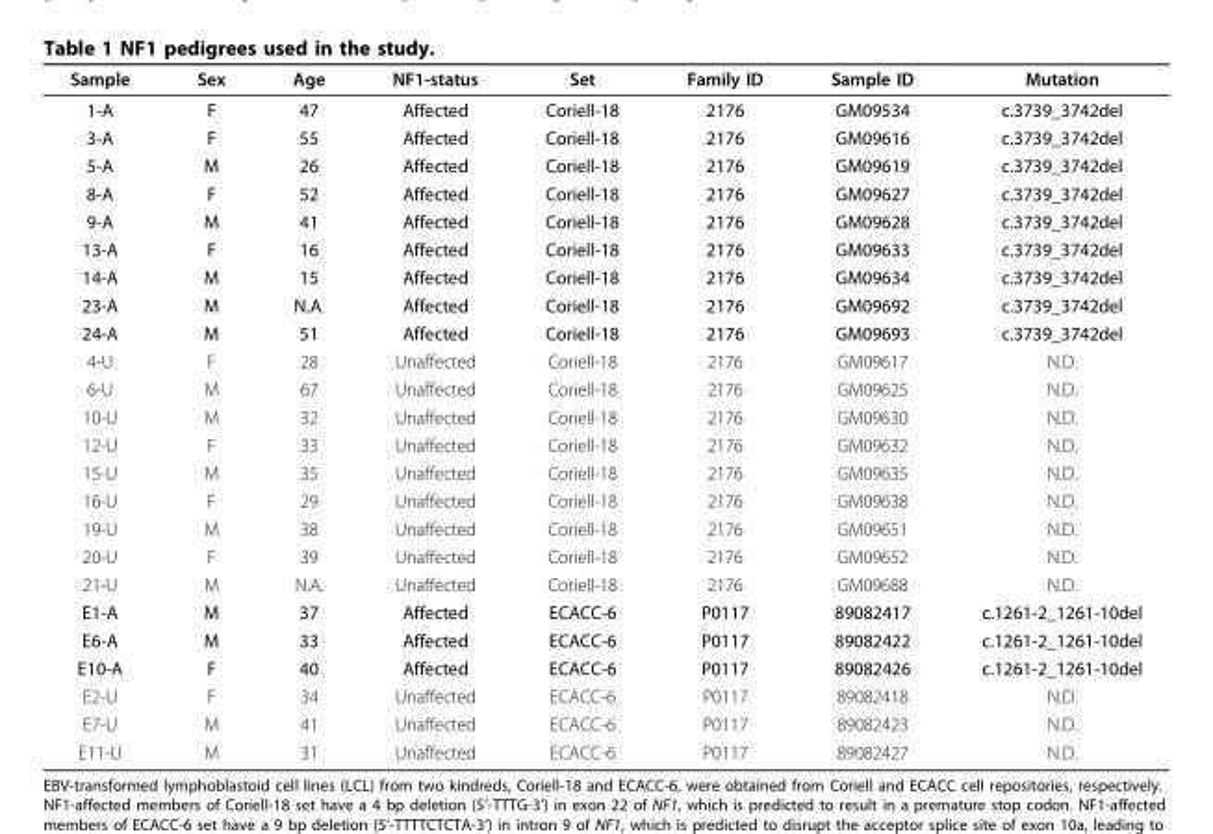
<table><thead><tr><td>Sample</td><td>Sex</td><td>Age</td><td>NF1-status</td><td>Set</td><td>Family ID</td><td>Sample ID</td><td>Mutation</td></tr></thead><tbody><tr><td>1-A</td><td>F</td><td>47</td><td>Affected</td><td>Coriell-18</td><td>2176</td><td>GM09534</td><td>c.3739_3742del</td></tr><tr><td>3-A</td><td>F</td><td>55</td><td>Affected</td><td>Coriell-18</td><td>2176</td><td>GM09616</td><td>c.3739_3742del</td></tr><tr><td>5-A</td><td>M</td><td>26</td><td>Affected</td><td>Coriell-18</td><td>2176</td><td>GM09619</td><td>c.3739_3742del</td></tr><tr><td>8-A</td><td>F</td><td>52</td><td>Affected</td><td>Coriell-18</td><td>2176</td><td>GM09627</td><td>c.3739_3742del</td></tr><tr><td>9-A</td><td>M</td><td>41</td><td>Affected</td><td>Coriell-18</td><td>2176</td><td>GM09628</td><td>c.3739_3742del</td></tr><tr><td>13-A</td><td>F</td><td>16</td><td>Affected</td><td>Coriell-18</td><td>2176</td><td>GM09633</td><td>c.3739_3742del</td></tr><tr><td>14-A</td><td>M</td><td>15</td><td>Affected</td><td>Coriell-18</td><td>2176</td><td>GM09634</td><td>c.3739_3742del</td></tr><tr><td>23-A</td><td>M</td><td>N.A.</td><td>Affected</td><td>Coriell-18</td><td>2176</td><td>GM09692</td><td>c.3739_3742del</td></tr><tr><td>24-A</td><td>M</td><td>51</td><td>Affected</td><td>Coriell-18</td><td>2176</td><td>GM09693</td><td>c.3739_3742del</td></tr><tr><td>4-U</td><td>F</td><td>28</td><td>Unaffected</td><td>Coriell-18</td><td>2176</td><td>GM09617</td><td>N.D.</td></tr><tr><td>6-U</td><td>M</td><td>67</td><td>Unaffected</td><td>Coriell-18</td><td>2176</td><td>GM09625</td><td>N.D.</td></tr><tr><td>10-U</td><td>M</td><td>32</td><td>Unaffected</td><td>Coriell-18</td><td>2176</td><td>GM09630</td><td>N.D.</td></tr><tr><td>12-U</td><td>F</td><td>33</td><td>Unaffected</td><td>Coriell-18</td><td>2176</td><td>GM09632</td><td>N.D.</td></tr><tr><td>15-U</td><td>M</td><td>35</td><td>Unaffected</td><td>Coriell-18</td><td>2176</td><td>GM09635</td><td>N.D.</td></tr><tr><td>16-U</td><td>F</td><td>29</td><td>Unaffected</td><td>Coriell-18</td><td>2176</td><td>GM09638</td><td>N.D.</td></tr><tr><td>19-U</td><td>M</td><td>38</td><td>Unaffected</td><td>Coriell-18</td><td>2176</td><td>GM09651</td><td>N.D.</td></tr><tr><td>20-U</td><td>F</td><td>39</td><td>Unaffected</td><td>Coriell-18</td><td>2176</td><td>GM09652</td><td>N.D.</td></tr><tr><td>21-U</td><td>M</td><td>N.A.</td><td>Unaffected</td><td>Coriell-18</td><td>2176</td><td>GM09688</td><td>N.D.</td></tr><tr><td>E1-A</td><td>M</td><td>37</td><td>Affected</td><td>ECACC-6</td><td>P0117</td><td>89082417</td><td>c.1261-2_1261-10del</td></tr><tr><td>E6-A</td><td>M</td><td>33</td><td>Affected</td><td>ECACC-6</td><td>P0117</td><td>89082422</td><td>c.1261-2_1261-10del</td></tr><tr><td>E10-A</td><td>F</td><td>40</td><td>Affected</td><td>ECACC-6</td><td>P0117</td><td>89082426</td><td>c.1261-2_1261-10del</td></tr><tr><td>E2-U</td><td>F</td><td>34</td><td>Unaffected</td><td>ECACC-6</td><td>P0117</td><td>89082418</td><td>N.D.</td></tr><tr><td>E7-U</td><td>M</td><td>41</td><td>Unaffected</td><td>ECACC-6</td><td>P0117</td><td>89082423</td><td>N.D.</td></tr><tr><td>E11-U</td><td>M</td><td>31</td><td>Unaffected</td><td>ECACC-6</td><td>P0117</td><td>89082427</td><td>N.D.</td></tr></tbody></table>